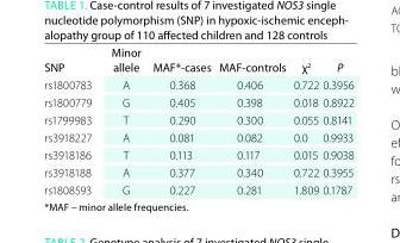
<table><thead><tr><td>SnP</td><td>Minor allele</td><td>MaF*-cases</td><td>MaF-controls</td><td>χ<sup>2</sup></td><td>P</td></tr></thead><tbody><tr><td>rs1800783</td><td>A</td><td>0.368</td><td>0.406</td><td>0.722</td><td>0.3956</td></tr><tr><td>rs1800779</td><td>G</td><td>0.405</td><td>0.398</td><td>0.018</td><td>0.8922</td></tr><tr><td>rs1799983</td><td>T</td><td>0.290</td><td>0.300</td><td>0.055</td><td>0.8141</td></tr><tr><td>rs3918227</td><td>A</td><td>0.081</td><td>0.082</td><td>0.0</td><td>0.9933</td></tr><tr><td>rs3918186</td><td>T</td><td>0.113</td><td>0.117</td><td>0.015</td><td>0.9038</td></tr><tr><td>rs3918188</td><td>A</td><td>0.377</td><td>0.340</td><td>0.722</td><td>0.3955</td></tr><tr><td>rs1808593</td><td>G</td><td>0.227</td><td>0.281</td><td>1.809</td><td>0.1787</td></tr></tbody></table>